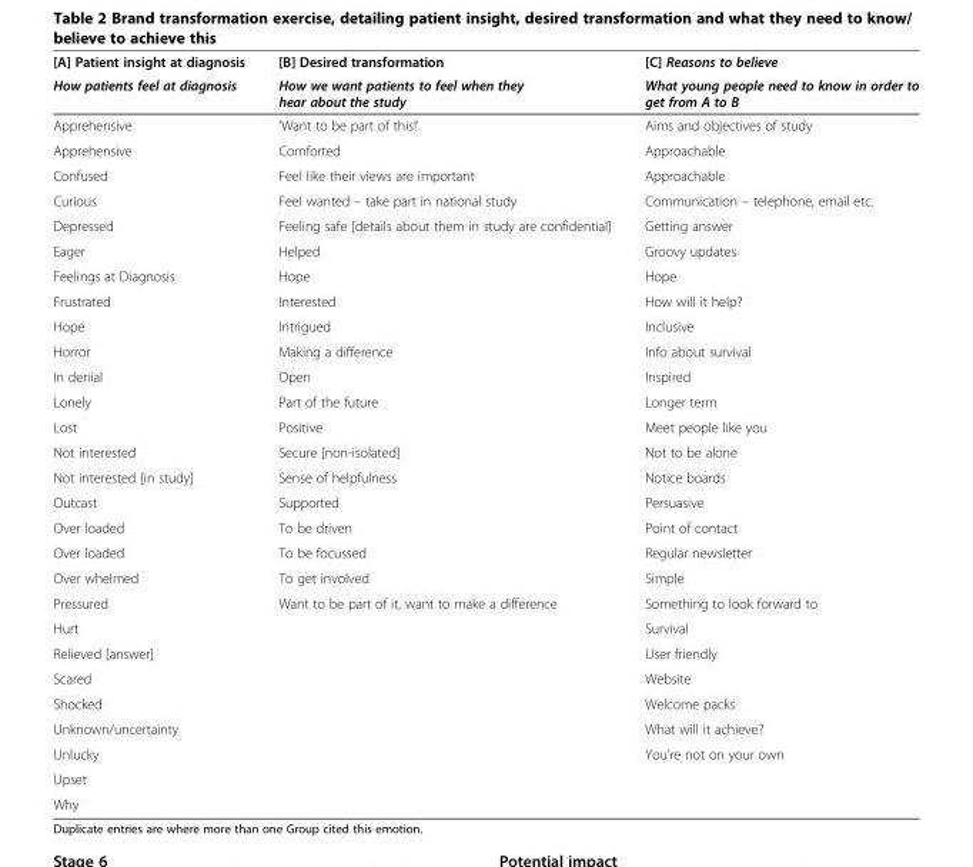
<table><thead><tr><td rowspan="2">[A] Patient insight at diagnosis How patients feel at diagnosis</td><td rowspan="2">[B] Desired transformation How we want patients to feel when they hear about the study</td><td rowspan="2">[C] Reasons to believe What young people need to know in order to get from A to B</td></tr><tr></tr></thead><tbody><tr><td>Apprehensive</td><td>‘Want to be part of this!’</td><td>Aims and objectives of study</td></tr><tr><td>Apprehensive</td><td>Comforted</td><td>Approachable</td></tr><tr><td>Confused</td><td>Feel like their views are important</td><td>Approachable</td></tr><tr><td>Curious</td><td>Feel wanted – take part in national study</td><td>Communication – telephone, email etc.</td></tr><tr><td>Depressed</td><td>Feeling safe [details about them in study are confidential]</td><td>Getting answer</td></tr><tr><td>Eager</td><td>Helped</td><td>Groovy updates</td></tr><tr><td>Feelings at Diagnosis</td><td>Hope</td><td>Hope</td></tr><tr><td>Frustrated</td><td>Interested</td><td>How will it help?</td></tr><tr><td>Hope</td><td>Intrigued</td><td>Inclusive</td></tr><tr><td>Horror</td><td>Making a difference</td><td>Info about survival</td></tr><tr><td>In denial</td><td>Open</td><td>Inspired</td></tr><tr><td>Lonely</td><td>Part of the future</td><td>Longer term</td></tr><tr><td>Lost</td><td>Positive</td><td>Meet people like you</td></tr><tr><td>Not interested</td><td>Secure [non-isolated]</td><td>Not to be alone</td></tr><tr><td>Not interested [in study]</td><td>Sense of helpfulness</td><td>Notice boards</td></tr><tr><td>Outcast</td><td>Supported</td><td>Persuasive</td></tr><tr><td>Over loaded</td><td>To be driven</td><td>Point of contact</td></tr><tr><td>Over loaded</td><td>To be focussed</td><td>Regular newsletter</td></tr><tr><td>Over whelmed</td><td>To get involved</td><td>Simple</td></tr><tr><td>Pressured</td><td>Want to be part of it, want to make a difference</td><td>Something to look forward to</td></tr><tr><td>Hurt</td><td></td><td>Survival</td></tr><tr><td>Relieved [answer]</td><td></td><td>User friendly</td></tr><tr><td>Scared</td><td></td><td>Website</td></tr><tr><td>Shocked</td><td></td><td>Welcome packs</td></tr><tr><td>Unknown/uncertainty</td><td></td><td>What will it achieve?</td></tr><tr><td>Unlucky</td><td></td><td>You’re not on your own</td></tr><tr><td colspan="3">Upset</td></tr><tr><td>Why</td><td></td><td></td></tr></tbody></table>